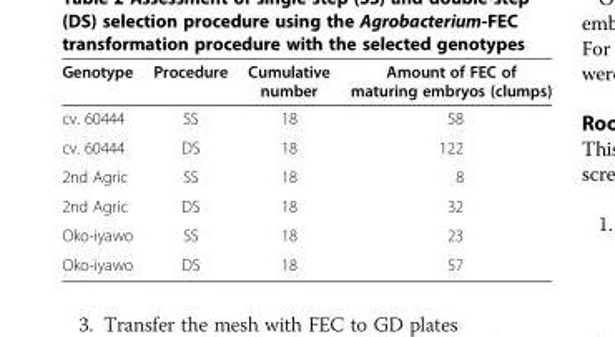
<table><thead><tr><td>Genotype</td><td>Procedure</td><td>Cumulative number</td><td>Amount of FEC of maturing embryos (clumps)</td></tr></thead><tbody><tr><td>cv. 60444</td><td>SS</td><td>18</td><td>58</td></tr><tr><td>cv. 60444</td><td>DS</td><td>18</td><td>122</td></tr><tr><td>2nd Agric</td><td>SS</td><td>18</td><td>8</td></tr><tr><td>2nd Agric</td><td>DS</td><td>18</td><td>32</td></tr><tr><td>Oko-iyawo</td><td>SS</td><td>18</td><td>23</td></tr><tr><td>Oko-iyawo</td><td>DS</td><td>18</td><td>57</td></tr></tbody></table>